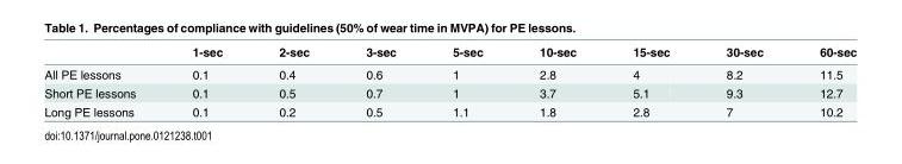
<table><thead><tr><td></td><td>1-sec</td><td>2-sec</td><td>3-sec</td><td>5-sec</td><td>10-sec</td><td>15-sec</td><td>30-sec</td><td>60-sec</td></tr></thead><tbody><tr><td>All PE lessons</td><td>0.1</td><td>0.4</td><td>0.6</td><td>1</td><td>2.8</td><td>4</td><td>8.2</td><td>11.5</td></tr><tr><td>Short PE lessons</td><td>0.1</td><td>0.5</td><td>0.7</td><td>1</td><td>3.7</td><td>5.1</td><td>9.3</td><td>12.7</td></tr><tr><td>Long PE lessons</td><td>0.1</td><td>0.2</td><td>0.5</td><td>1.1</td><td>1.8</td><td>2.8</td><td>7</td><td>10.2</td></tr></tbody></table>